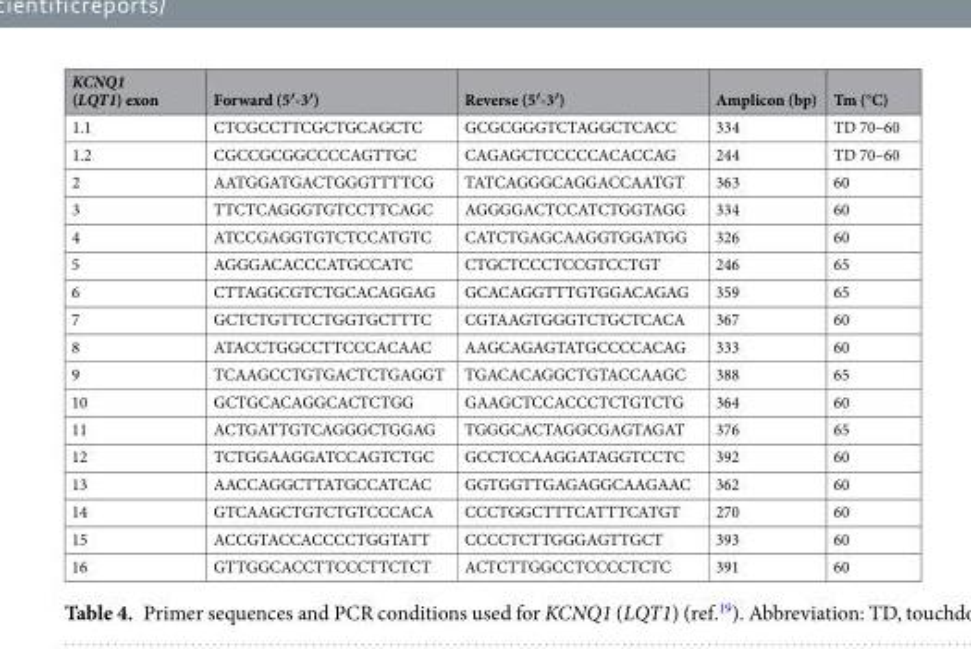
<table><thead><tr><td>KCNQ1 (LQT1) exon</td><td>Forward (5′-3′)</td><td>Reverse (5′-3′)</td><td>Amplicon (bp)</td><td>Tm (°C)</td></tr></thead><tbody><tr><td>1.1</td><td>CTCGCCTTCGCTGCAGCTC</td><td>GCGCGGGTCTAGGCTCACC</td><td>334</td><td>TD 70–60</td></tr><tr><td>1.2</td><td>CGCCGCGGCCCCAGTTGC</td><td>CAGAGCTCCCCCACACCAG</td><td>244</td><td>TD 70–60</td></tr><tr><td>2</td><td>AATGGATGACTGGGTTTTCG</td><td>TATCAGGGCAGGACCAATGT</td><td>363</td><td>60</td></tr><tr><td>3</td><td>TTCTCAGGGTGTCCTTCAGC</td><td>AGGGGACTCCATCTGGTAGG</td><td>334</td><td>60</td></tr><tr><td>4</td><td>ATCCGAGGTGTCTCCATGTC</td><td>CATCTGAGCAAGGTGGATGG</td><td>326</td><td>60</td></tr><tr><td>5</td><td>AGGGACACCCATGCCATC</td><td>CTGCTCCCTCCGTCCTGT</td><td>246</td><td>65</td></tr><tr><td>6</td><td>CTTAGGCGTCTGCACAGGAG</td><td>GCACAGGTTTGTGGACAGAG</td><td>359</td><td>65</td></tr><tr><td>7</td><td>GCTCTGTTCCTGGTGCTTTC</td><td>CGTAAGTGGGTCTGCTCACA</td><td>367</td><td>60</td></tr><tr><td>8</td><td>ATACCTGGCCTTCCCACAAC</td><td>AAGCAGAGTATGCCCCACAG</td><td>333</td><td>60</td></tr><tr><td>9</td><td>TCAAGCCTGTGACTCTGAGGT</td><td>TGACACAGGCTGTACCAAGC</td><td>388</td><td>65</td></tr><tr><td>10</td><td>GCTGCACAGGCACTCTGG</td><td>GAAGCTCCACCCTCTGTCTG</td><td>364</td><td>60</td></tr><tr><td>11</td><td>ACTGATTGTCAGGGCTGGAG</td><td>TGGGCACTAGGCGAGTAGAT</td><td>376</td><td>65</td></tr><tr><td>12</td><td>TCTGGAAGGATCCAGTCTGC</td><td>GCCTCCAAGGATAGGTCCTC</td><td>392</td><td>60</td></tr><tr><td>13</td><td>AACCAGGCTTATGCCATCAC</td><td>GGTGGTTGAGAGGCAAGAAC</td><td>362</td><td>60</td></tr><tr><td>14</td><td>GTCAAGCTGTCTGTCCCACA</td><td>CCCTGGCTTTCATTTCATGT</td><td>270</td><td>60</td></tr><tr><td>15</td><td>ACCGTACCACCCCTGGTATT</td><td>CCCCTCTTGGGAGTTGCT</td><td>393</td><td>60</td></tr><tr><td>16</td><td>GTTGGCACCTTCCCTTCTCT</td><td>ACTCTTGGCCTCCCCTCTC</td><td>391</td><td>60</td></tr></tbody></table>